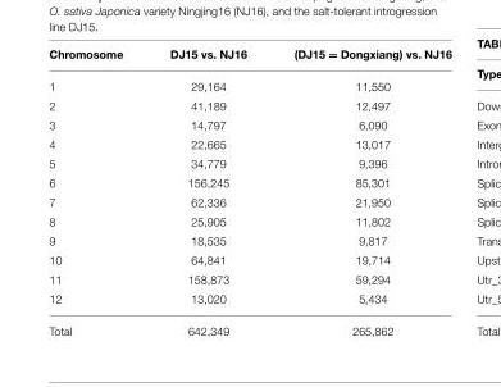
<table><thead><tr><td>Chromosome</td><td>DJ15 vs. NJ16</td><td>(DJ15 = Dongxiang) vs. NJ16</td></tr></thead><tbody><tr><td>1</td><td>29,164</td><td>11,550</td></tr><tr><td>2</td><td>41,189</td><td>12,497</td></tr><tr><td>3</td><td>14,797</td><td>6,090</td></tr><tr><td>4</td><td>22,665</td><td>13,017</td></tr><tr><td>5</td><td>34,779</td><td>9,396</td></tr><tr><td>6</td><td>156,245</td><td>85,301</td></tr><tr><td>7</td><td>62,336</td><td>21,950</td></tr><tr><td>8</td><td>25,905</td><td>11,802</td></tr><tr><td>9</td><td>18,535</td><td>9,817</td></tr><tr><td>10</td><td>64,841</td><td>19,714</td></tr><tr><td>11</td><td>158,873</td><td>59,294</td></tr><tr><td>12</td><td>13,020</td><td>5,434</td></tr><tr><td>Total</td><td>642,349</td><td>265,862</td></tr></tbody></table>